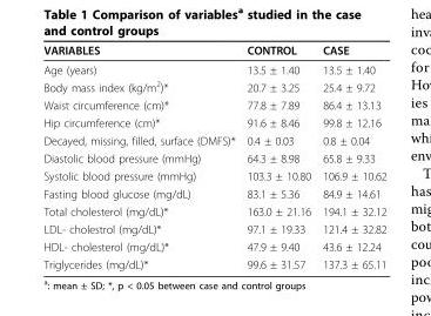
<table><thead><tr><td>VARIABLES</td><td>CONTROL</td><td>CASE</td></tr></thead><tbody><tr><td>Age (years)</td><td>13.5 ± 1.40</td><td>13.5 ± 1.40</td></tr><tr><td>Body mass index (kg/m<sup>2</sup>)*</td><td>20.7 ± 3.25</td><td>25.4 ± 9.72</td></tr><tr><td>Waist circumference (cm)*</td><td>77.8 ± 7.89</td><td>86.4 ± 13.13</td></tr><tr><td>Hip circumference (cm)*</td><td>91.6 ± 8.46</td><td>99.8 ± 12.16</td></tr><tr><td>Decayed, missing, filled, surface (DMFS)*</td><td>0.4 ± 0.03</td><td>0.8 ± 0.04</td></tr><tr><td>Diastolic blood pressure (mmHg)</td><td>64.3 ± 8.98</td><td>65.8 ± 9.33</td></tr><tr><td>Systolic blood pressure (mmHg)</td><td>103.3 ± 10.80</td><td>106.9 ± 10.62</td></tr><tr><td>Fasting blood glucose (mg/dL)</td><td>83.1 ± 5.36</td><td>84.9 ± 14.61</td></tr><tr><td>Total cholesterol (mg/dL)*</td><td>163.0 ± 21.16</td><td>194.1 ± 32.12</td></tr><tr><td>LDL- cholestrol (mg/dL)*</td><td>97.1 ± 19.33</td><td>121.4 ± 32.82</td></tr><tr><td>HDL- cholesterol (mg/dL)*</td><td>47.9 ± 9.40</td><td>43.6 ± 12.24</td></tr><tr><td>Triglycerides (mg/dL)*</td><td>99.6 ± 31.57</td><td>137.3 ± 65.11</td></tr></tbody></table>